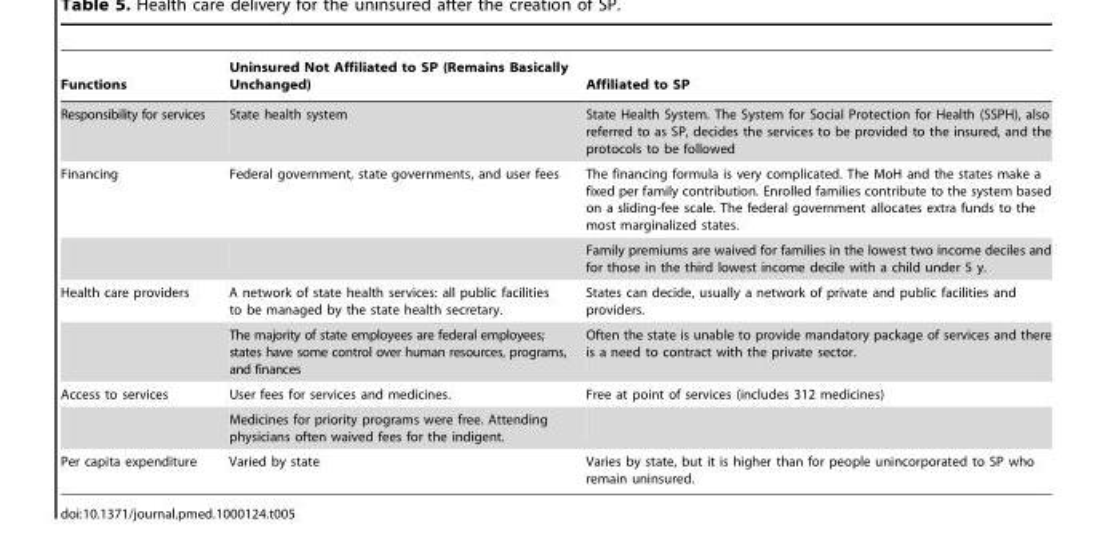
<table><thead><tr><td>Functions</td><td>Uninsured Not Affiliated to SP (Remains Basically Unchanged)</td><td>Affiliated to SP</td></tr></thead><tbody><tr><td>Responsibility for services</td><td>State health system</td><td>State Health System. The System for Social Protection for Health (SSPH), also referred to as SP, decides the services to be provided to the insured, and the protocols to be followed</td></tr><tr><td rowspan="2">Financing</td><td>Federal government, state governments, and user fees</td><td>The financing formula is very complicated. The MoH and the states make a fixed per family contribution. Enrolled families contribute to the system based on a sliding-fee scale. The federal government allocates extra funds to the most marginalized states.</td></tr><tr><td></td><td>Family premiums are waived for families in the lowest two income deciles and for those in the third lowest income decile with a child under 5 y.</td></tr><tr><td rowspan="2">Health care providers</td><td>A network of state health services: all public facilities to be managed by the state health secretary.</td><td>States can decide, usually a network of private and public facilities and providers.</td></tr><tr><td>The majority of state employees are federal employees; states have some control over human resources, programs, and finances</td><td>Often the state is unable to provide mandatory package of services and there is a need to contract with the private sector.</td></tr><tr><td rowspan="2">Access to services</td><td>User fees for services and medicines.</td><td>Free at point of services (includes 312 medicines)</td></tr><tr><td>Medicines for priority programs were free. Attending physicians often waived fees for the indigent.</td><td></td></tr><tr><td>Per capita expenditure</td><td>Varied by state</td><td>Varies by state, but it is higher than for people unincorporated to SP who remain uninsured.</td></tr></tbody></table>